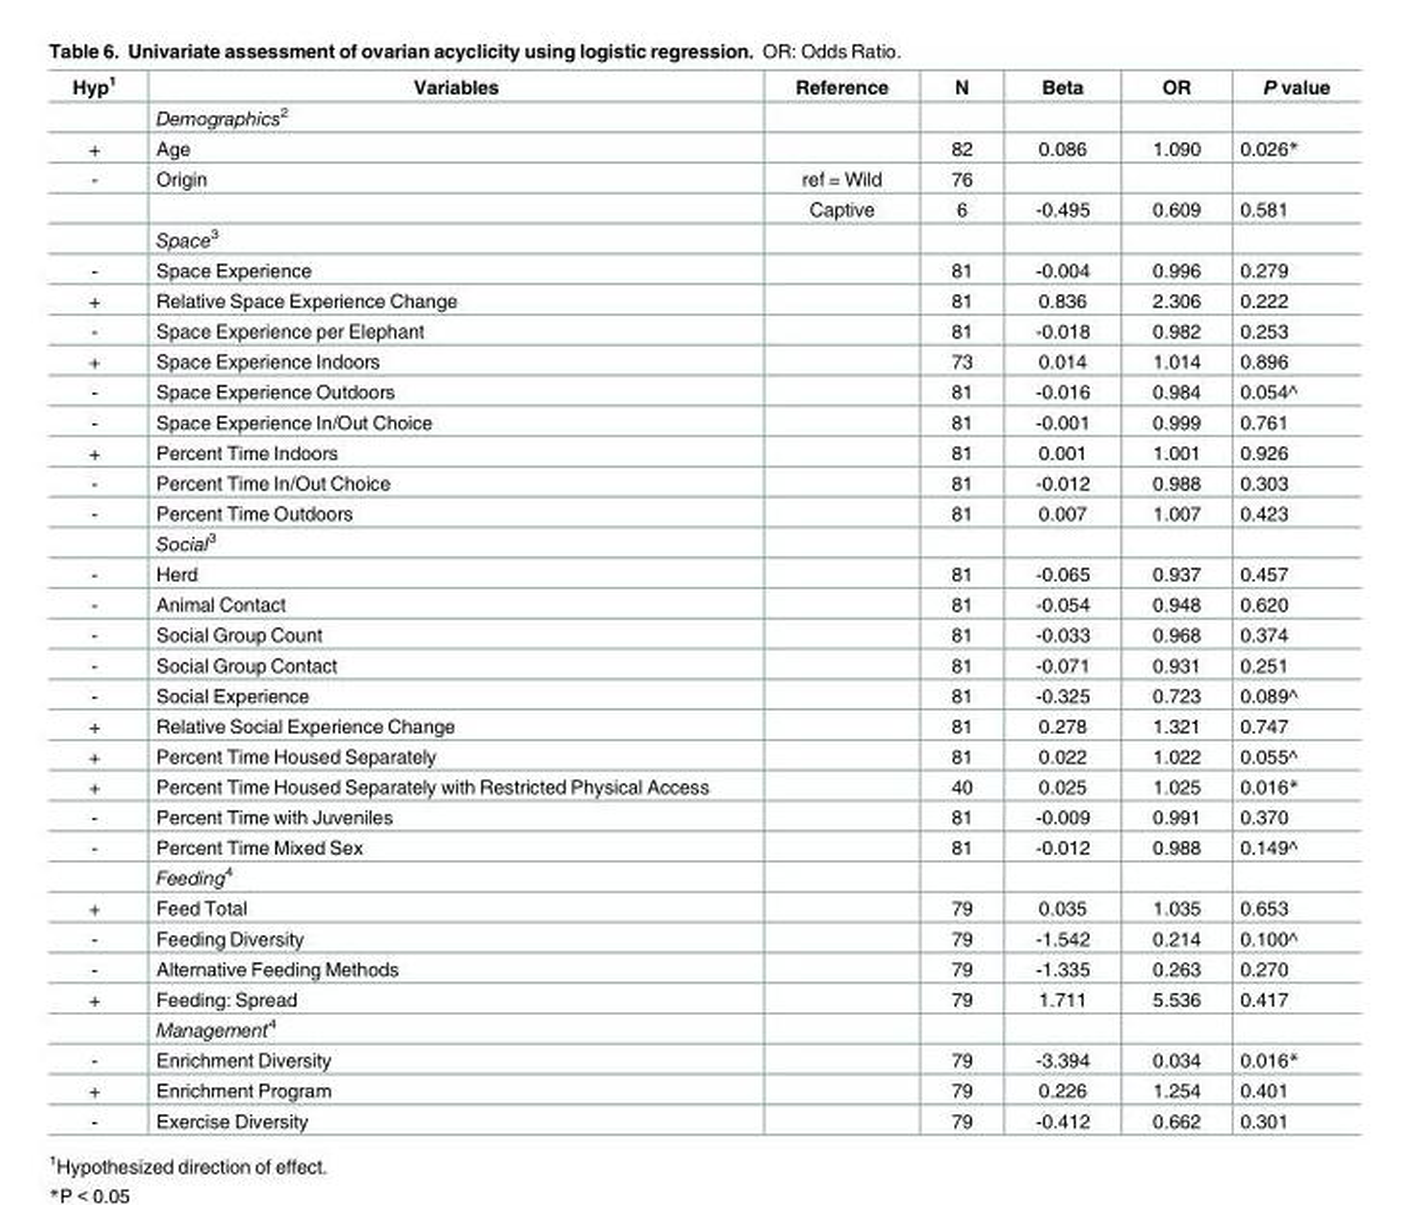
<table><thead><tr><td>Hyp<sup>1</sup></td><td>Variables</td><td>Reference</td><td>N</td><td>Beta</td><td>OR</td><td>P value</td></tr></thead><tbody><tr><td></td><td>Demographics<sup>2</sup></td><td></td><td></td><td></td><td></td><td></td></tr><tr><td>+</td><td>Age</td><td></td><td>82</td><td>0.086</td><td>1.090</td><td>0.026*</td></tr><tr><td rowspan="3">-</td><td>Origin</td><td>ref = Wild</td><td>76</td><td></td><td></td><td></td></tr><tr><td></td><td>Captive</td><td>6</td><td>-0.495</td><td>0.609</td><td>0.581</td></tr><tr><td>Space<sup>3</sup></td><td></td><td></td><td></td><td></td><td></td></tr><tr><td>-</td><td>Space Experience</td><td></td><td>81</td><td>-0.004</td><td>0.996</td><td>0.279</td></tr><tr><td>+</td><td>Relative Space Experience Change</td><td></td><td>81</td><td>0.836</td><td>2.306</td><td>0.222</td></tr><tr><td>-</td><td>Space Experience per Elephant</td><td></td><td>81</td><td>-0.018</td><td>0.982</td><td>0.253</td></tr><tr><td>+</td><td>Space Experience Indoors</td><td></td><td>73</td><td>0.014</td><td>1.014</td><td>0.896</td></tr><tr><td>-</td><td>Space Experience Outdoors</td><td></td><td>81</td><td>-0.016</td><td>0.984</td><td>0.054^</td></tr><tr><td>-</td><td>Space Experience In/Out Choice</td><td></td><td>81</td><td>-0.001</td><td>0.999</td><td>0.761</td></tr><tr><td>+</td><td>Percent Time Indoors</td><td></td><td>81</td><td>0.001</td><td>1.001</td><td>0.926</td></tr><tr><td>-</td><td>Percent Time In/Out Choice</td><td></td><td>81</td><td>-0.012</td><td>0.988</td><td>0.303</td></tr><tr><td rowspan="2">-</td><td>Percent Time Outdoors</td><td></td><td>81</td><td>0.007</td><td>1.007</td><td>0.423</td></tr><tr><td>Social<sup>3</sup></td><td></td><td></td><td></td><td></td><td></td></tr><tr><td>-</td><td>Herd</td><td></td><td>81</td><td>-0.065</td><td>0.937</td><td>0.457</td></tr><tr><td>-</td><td>Animal Contact</td><td></td><td>81</td><td>-0.054</td><td>0.948</td><td>0.620</td></tr><tr><td>-</td><td>Social Group Count</td><td></td><td>81</td><td>-0.033</td><td>0.968</td><td>0.374</td></tr><tr><td>-</td><td>Social Group Contact</td><td></td><td>81</td><td>-0.071</td><td>0.931</td><td>0.251</td></tr><tr><td>-</td><td>Social Experience</td><td></td><td>81</td><td>-0.325</td><td>0.723</td><td>0.089^</td></tr><tr><td>+</td><td>Relative Social Experience Change</td><td></td><td>81</td><td>0.278</td><td>1.321</td><td>0.747</td></tr><tr><td>+</td><td>Percent Time Housed Separately</td><td></td><td>81</td><td>0.022</td><td>1.022</td><td>0.055^</td></tr><tr><td>+</td><td>Percent Time Housed Separately with Restricted Physical Access</td><td></td><td>40</td><td>0.025</td><td>1.025</td><td>0.016*</td></tr><tr><td>-</td><td>Percent Time with Juveniles</td><td></td><td>81</td><td>-0.009</td><td>0.991</td><td>0.370</td></tr><tr><td rowspan="2">-</td><td>Percent Time Mixed Sex</td><td></td><td>81</td><td>-0.012</td><td>0.988</td><td>0.149^</td></tr><tr><td>Feeding<sup>4</sup></td><td></td><td></td><td></td><td></td><td></td></tr><tr><td>+</td><td>Feed Total</td><td></td><td>79</td><td>0.035</td><td>1.035</td><td>0.653</td></tr><tr><td>-</td><td>Feeding Diversity</td><td></td><td>79</td><td>-1.542</td><td>0.214</td><td>0.100^</td></tr><tr><td>-</td><td>Alternative Feeding Methods</td><td></td><td>79</td><td>-1.335</td><td>0.263</td><td>0.270</td></tr><tr><td rowspan="2">+</td><td>Feeding: Spread</td><td></td><td>79</td><td>1.711</td><td>5.536</td><td>0.417</td></tr><tr><td>Management<sup>4</sup></td><td></td><td></td><td></td><td></td><td></td></tr><tr><td>-</td><td>Enrichment Diversity</td><td></td><td>79</td><td>-3.394</td><td>0.034</td><td>0.016*</td></tr><tr><td>+</td><td>Enrichment Program</td><td></td><td>79</td><td>0.226</td><td>1.254</td><td>0.401</td></tr><tr><td>-</td><td>Exercise Diversity</td><td></td><td>79</td><td>-0.412</td><td>0.662</td><td>0.301</td></tr></tbody></table>